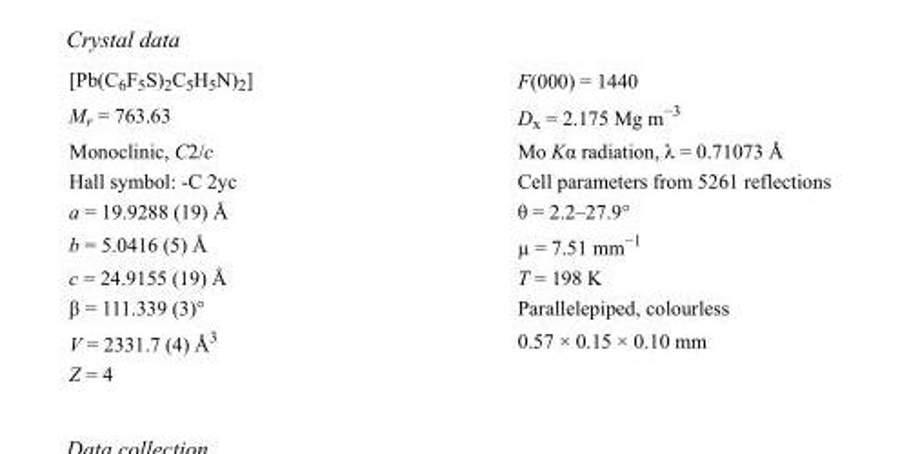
<table><tbody><tr><td>[Pb(C<sub>6</sub>F<sub>5</sub>S)<sub>2</sub>C<sub>5</sub>H<sub>5</sub>N)<sub>2</sub>]</td><td>F(000) = 1440</td></tr><tr><td>M<sub>r</sub> = 763.63</td><td>D<sub>x</sub> = 2.175 Mg m<sup>−3</sup></td></tr><tr><td>Monoclinic, C2/c</td><td>Mo Kα radiation, λ = 0.71073 Å</td></tr><tr><td>Hall symbol: -C 2yc</td><td>Cell parameters from 5261 reflections</td></tr><tr><td>a = 19.9288 (19) Å</td><td>θ = 2.2–27.9°</td></tr><tr><td>b = 5.0416 (5) Å</td><td>µ = 7.51 mm<sup>−1</sup></td></tr><tr><td>c = 24.9155 (19) Å</td><td>T = 198 K</td></tr><tr><td>β = 111.339 (3)°</td><td>Parallelepiped, colourless</td></tr><tr><td>V = 2331.7 (4) Å<sup>3</sup></td><td>0.57 × 0.15 × 0.10 mm</td></tr><tr><td>Z = 4</td><td></td></tr></tbody></table>